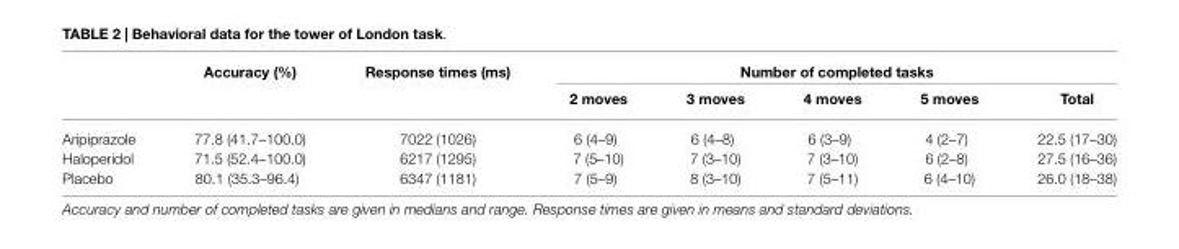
<table><thead><tr><td rowspan="2"></td><td rowspan="2">Accuracy (%)</td><td rowspan="2">Response times (ms)</td><td colspan="5">Number of completed tasks</td></tr><tr><td>2 moves</td><td>3 moves</td><td>4 moves</td><td>5 moves</td><td>Total</td></tr></thead><tbody><tr><td>Aripiprazole</td><td>77.8 (41.7–100.0)</td><td>7022 (1026)</td><td>6 (4–9)</td><td>6 (4–8)</td><td>6 (3–9)</td><td>4 (2–7)</td><td>22.5 (17–30)</td></tr><tr><td>Haloperidol</td><td>71.5 (52.4–100.0)</td><td>6217 (1295)</td><td>7 (5–10)</td><td>7 (3–10)</td><td>7 (3–10)</td><td>6 (2–8)</td><td>27.5 (16–36)</td></tr><tr><td>Placebo</td><td>80.1 (35.3–96.4)</td><td>6347 (1181)</td><td>7 (5–9)</td><td>8 (3–10)</td><td>7 (5–11)</td><td>6 (4–10)</td><td>26.0 (18–38)</td></tr></tbody></table>